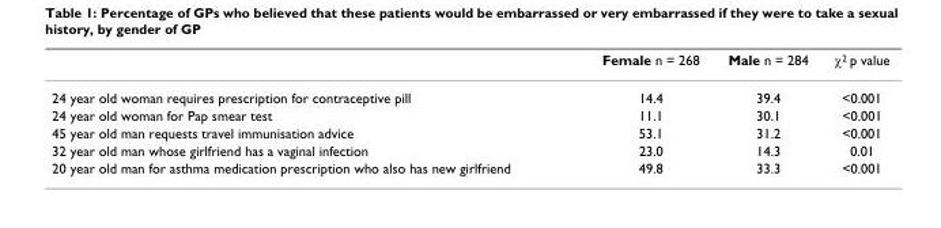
<table><thead><tr><td></td><td>Female n = 268</td><td>Male n = 284</td><td>χ<sup>2</sup> p value</td></tr></thead><tbody><tr><td>24 year old woman requires prescription for contraceptive pill</td><td>14.4</td><td>39.4</td><td>&lt;0.001</td></tr><tr><td>24 year old woman for Pap smear test</td><td>11.1</td><td>30.1</td><td>&lt;0.001</td></tr><tr><td>45 year old man requests travel immunisation advice</td><td>53.1</td><td>31.2</td><td>&lt;0.001</td></tr><tr><td>32 year old man whose girlfriend has a vaginal infection</td><td>23.0</td><td>14.3</td><td>0.01</td></tr><tr><td>20 year old man for asthma medication prescription who also has new girlfriend</td><td>49.8</td><td>33.3</td><td>&lt;0.001</td></tr></tbody></table>